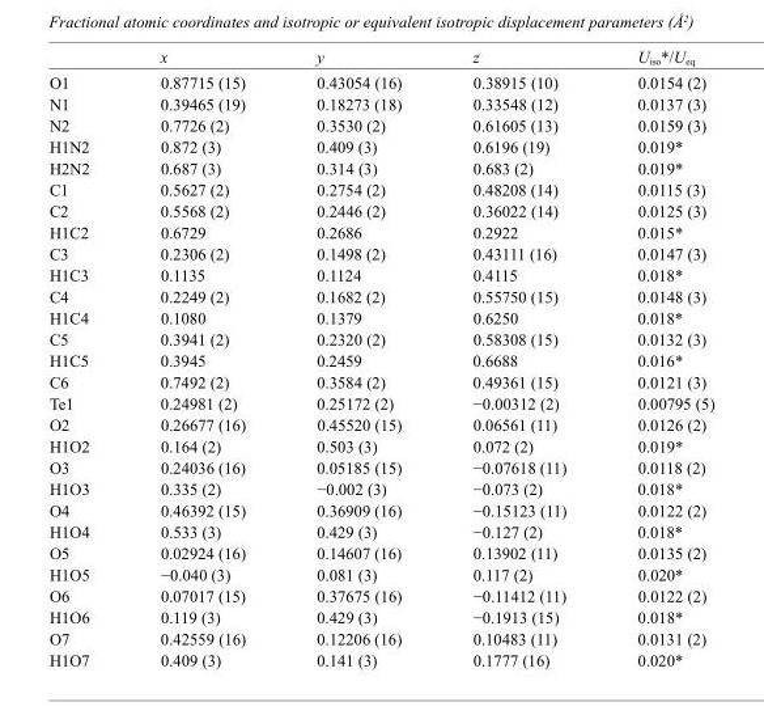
<table><thead><tr><td></td><td>x</td><td>y</td><td>z</td><td>U<sub>iso</sub>*/U<sub>eq</sub></td></tr></thead><tbody><tr><td>O1</td><td>0.87715 (15)</td><td>0.43054 (16)</td><td>0.38915 (10)</td><td>0.0154 (2)</td></tr><tr><td>N1</td><td>0.39465 (19)</td><td>0.18273 (18)</td><td>0.33548 (12)</td><td>0.0137 (3)</td></tr><tr><td>N2</td><td>0.7726 (2)</td><td>0.3530 (2)</td><td>0.61605 (13)</td><td>0.0159 (3)</td></tr><tr><td>H1N2</td><td>0.872 (3)</td><td>0.409 (3)</td><td>0.6196 (19)</td><td>0.019*</td></tr><tr><td>H2N2</td><td>0.687 (3)</td><td>0.314 (3)</td><td>0.683 (2)</td><td>0.019*</td></tr><tr><td>C1</td><td>0.5627 (2)</td><td>0.2754 (2)</td><td>0.48208 (14)</td><td>0.0115 (3)</td></tr><tr><td>C2</td><td>0.5568 (2)</td><td>0.2446 (2)</td><td>0.36022 (14)</td><td>0.0125 (3)</td></tr><tr><td>H1C2</td><td>0.6729</td><td>0.2686</td><td>0.2922</td><td>0.015*</td></tr><tr><td>C3</td><td>0.2306 (2)</td><td>0.1498 (2)</td><td>0.43111 (16)</td><td>0.0147 (3)</td></tr><tr><td>H1C3</td><td>0.1135</td><td>0.1124</td><td>0.4115</td><td>0.018*</td></tr><tr><td>C4</td><td>0.2249 (2)</td><td>0.1682 (2)</td><td>0.55750 (15)</td><td>0.0148 (3)</td></tr><tr><td>H1C4</td><td>0.1080</td><td>0.1379</td><td>0.6250</td><td>0.018*</td></tr><tr><td>C5</td><td>0.3941 (2)</td><td>0.2320 (2)</td><td>0.58308 (15)</td><td>0.0132 (3)</td></tr><tr><td>H1C5</td><td>0.3945</td><td>0.2459</td><td>0.6688</td><td>0.016*</td></tr><tr><td>C6</td><td>0.7492 (2)</td><td>0.3584 (2)</td><td>0.49361 (15)</td><td>0.0121 (3)</td></tr><tr><td>Te1</td><td>0.24981 (2)</td><td>0.25172 (2)</td><td>−0.00312 (2)</td><td>0.00795 (5)</td></tr><tr><td>O2</td><td>0.26677 (16)</td><td>0.45520 (15)</td><td>0.06561 (11)</td><td>0.0126 (2)</td></tr><tr><td>H1O2</td><td>0.164 (2)</td><td>0.503 (3)</td><td>0.072 (2)</td><td>0.019*</td></tr><tr><td>O3</td><td>0.24036 (16)</td><td>0.05185 (15)</td><td>−0.07618 (11)</td><td>0.0118 (2)</td></tr><tr><td>H1O3</td><td>0.335 (2)</td><td>−0.002 (3)</td><td>−0.073 (2)</td><td>0.018*</td></tr><tr><td>O4</td><td>0.46392 (15)</td><td>0.36909 (16)</td><td>−0.15123 (11)</td><td>0.0122 (2)</td></tr><tr><td>H1O4</td><td>0.533 (3)</td><td>0.429 (3)</td><td>−0.127 (2)</td><td>0.018*</td></tr><tr><td>O5</td><td>0.02924 (16)</td><td>0.14607 (16)</td><td>0.13902 (11)</td><td>0.0135 (2)</td></tr><tr><td>H1O5</td><td>−0.040 (3)</td><td>0.081 (3)</td><td>0.117 (2)</td><td>0.020*</td></tr><tr><td>O6</td><td>0.07017 (15)</td><td>0.37675 (16)</td><td>−0.11412 (11)</td><td>0.0122 (2)</td></tr><tr><td>H1O6</td><td>0.119 (3)</td><td>0.429 (3)</td><td>−0.1913 (15)</td><td>0.018*</td></tr><tr><td>O7</td><td>0.42559 (16)</td><td>0.12206 (16)</td><td>0.10483 (11)</td><td>0.0131 (2)</td></tr><tr><td>H1O7</td><td>0.409 (3)</td><td>0.141 (3)</td><td>0.1777 (16)</td><td>0.020*</td></tr></tbody></table>